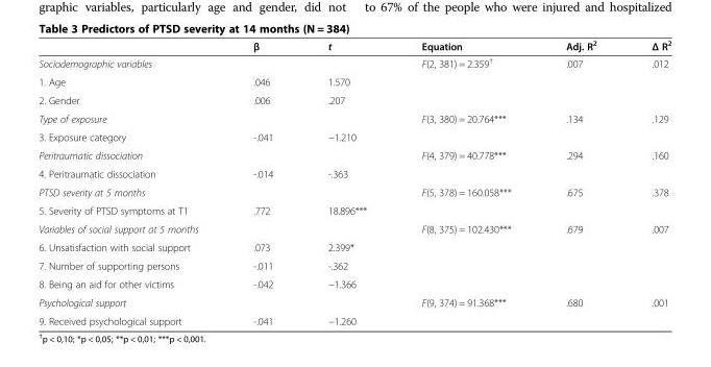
<table><thead><tr><td></td><td>β</td><td>t</td><td>Equation</td><td>Adj. R<sup>2</sup></td><td>Δ R<sup>2</sup></td></tr></thead><tbody><tr><td>Sociodemographic variables</td><td></td><td></td><td>F(2, 381) = 2.359<sup>†</sup></td><td>.007</td><td>.012</td></tr><tr><td>1. Age</td><td>.046</td><td>1.570</td><td></td><td></td><td></td></tr><tr><td>2. Gender</td><td>.006</td><td>.207</td><td></td><td></td><td></td></tr><tr><td>Type of exposure</td><td></td><td></td><td>F(3, 380) = 20.764***</td><td>.134</td><td>.129</td></tr><tr><td>3. Exposure category</td><td>-.041</td><td>−1.210</td><td></td><td></td><td></td></tr><tr><td>Peritraumatic dissociation</td><td></td><td></td><td>F(4, 379) = 40.778***</td><td>.294</td><td>.160</td></tr><tr><td>4. Peritraumatic dissociation</td><td>-.014</td><td>-.363</td><td></td><td></td><td></td></tr><tr><td>PTSD severity at 5 months</td><td></td><td></td><td>F(5, 378) = 160.058***</td><td>.675</td><td>.378</td></tr><tr><td>5. Severity of PTSD symptoms at T1</td><td>.772</td><td>18.896***</td><td></td><td></td><td></td></tr><tr><td>Variables of social support at 5 months</td><td></td><td></td><td>F(8, 375) = 102.430***</td><td>.679</td><td>.007</td></tr><tr><td>6. Unsatisfaction with social support</td><td>.073</td><td>2.399*</td><td></td><td></td><td></td></tr><tr><td>7. Number of supporting persons</td><td>-.011</td><td>-.362</td><td></td><td></td><td></td></tr><tr><td>8. Being an aid for other victims</td><td>-.042</td><td>−1.366</td><td></td><td></td><td></td></tr><tr><td>Psychological support</td><td></td><td></td><td>F(9, 374) = 91.368***</td><td>.680</td><td>.001</td></tr><tr><td>9. Received psychological support</td><td>-.041</td><td>−1.260</td><td></td><td></td><td></td></tr></tbody></table>